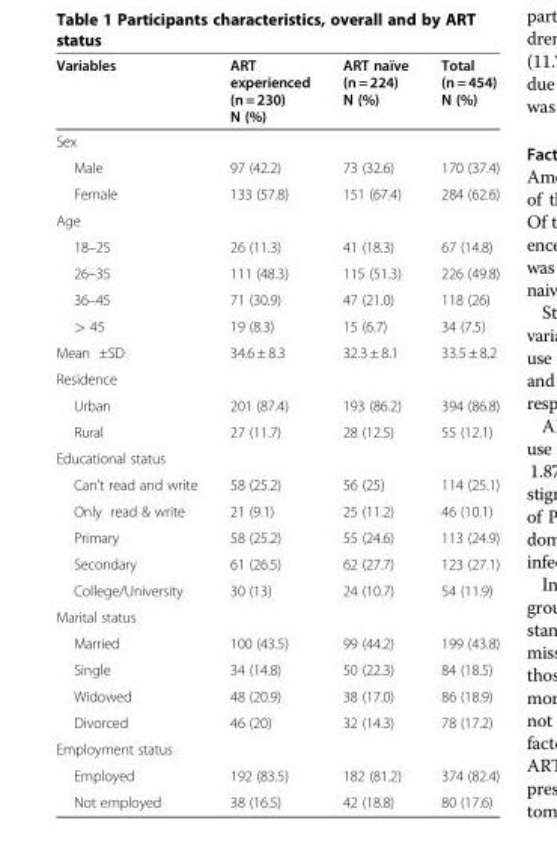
<table><thead><tr><td>Variables</td><td>ART experienced (n = 230) N (%)</td><td>ART naïve (n = 224) N (%)</td><td>Total (n = 454) N (%)</td></tr></thead><tbody><tr><td colspan="4">Sex</td></tr><tr><td>Male</td><td>97 (42.2)</td><td>73 (32.6)</td><td>170 (37.4)</td></tr><tr><td>Female</td><td>133 (57.8)</td><td>151 (67.4)</td><td>284 (62.6)</td></tr><tr><td colspan="4">Age</td></tr><tr><td>18–25</td><td>26 (11.3)</td><td>41 (18.3)</td><td>67 (14.8)</td></tr><tr><td>26–35</td><td>111 (48.3)</td><td>115 (51.3)</td><td>226 (49.8)</td></tr><tr><td>36–45</td><td>71 (30.9)</td><td>47 (21.0)</td><td>118 (26)</td></tr><tr><td>&gt; 45</td><td>19 (8.3)</td><td>15 (6.7)</td><td>34 (7.5)</td></tr><tr><td>Mean ±SD</td><td>34.6 ± 8.3</td><td>32.3 ± 8.1</td><td>33.5 ± 8.2</td></tr><tr><td colspan="4">Residence</td></tr><tr><td>Urban</td><td>201 (87.4)</td><td>193 (86.2)</td><td>394 (86.8)</td></tr><tr><td>Rural</td><td>27 (11.7)</td><td>28 (12.5)</td><td>55 (12.1)</td></tr><tr><td colspan="4">Educational status</td></tr><tr><td>Can’t read and write</td><td>58 (25.2)</td><td>56 (25)</td><td>114 (25.1)</td></tr><tr><td>Only read &amp; write</td><td>21 (9.1)</td><td>25 (11.2)</td><td>46 (10.1)</td></tr><tr><td>Primary</td><td>58 (25.2)</td><td>55 (24.6)</td><td>113 (24.9)</td></tr><tr><td>Secondary</td><td>61 (26.5)</td><td>62 (27.7)</td><td>123 (27.1)</td></tr><tr><td>College/University</td><td>30 (13)</td><td>24 (10.7)</td><td>54 (11.9)</td></tr><tr><td colspan="4">Marital status</td></tr><tr><td>Married</td><td>100 (43.5)</td><td>99 (44.2)</td><td>199 (43.8)</td></tr><tr><td>Single</td><td>34 (14.8)</td><td>50 (22.3)</td><td>84 (18.5)</td></tr><tr><td>Widowed</td><td>48 (20.9)</td><td>38 (17.0)</td><td>86 (18.9)</td></tr><tr><td>Divorced</td><td>46 (20)</td><td>32 (14.3)</td><td>78 (17.2)</td></tr><tr><td colspan="4">Employment status</td></tr><tr><td>Employed</td><td>192 (83.5)</td><td>182 (81.2)</td><td>374 (82.4)</td></tr><tr><td>Not employed</td><td>38 (16.5)</td><td>42 (18.8)</td><td>80 (17.6)</td></tr></tbody></table>